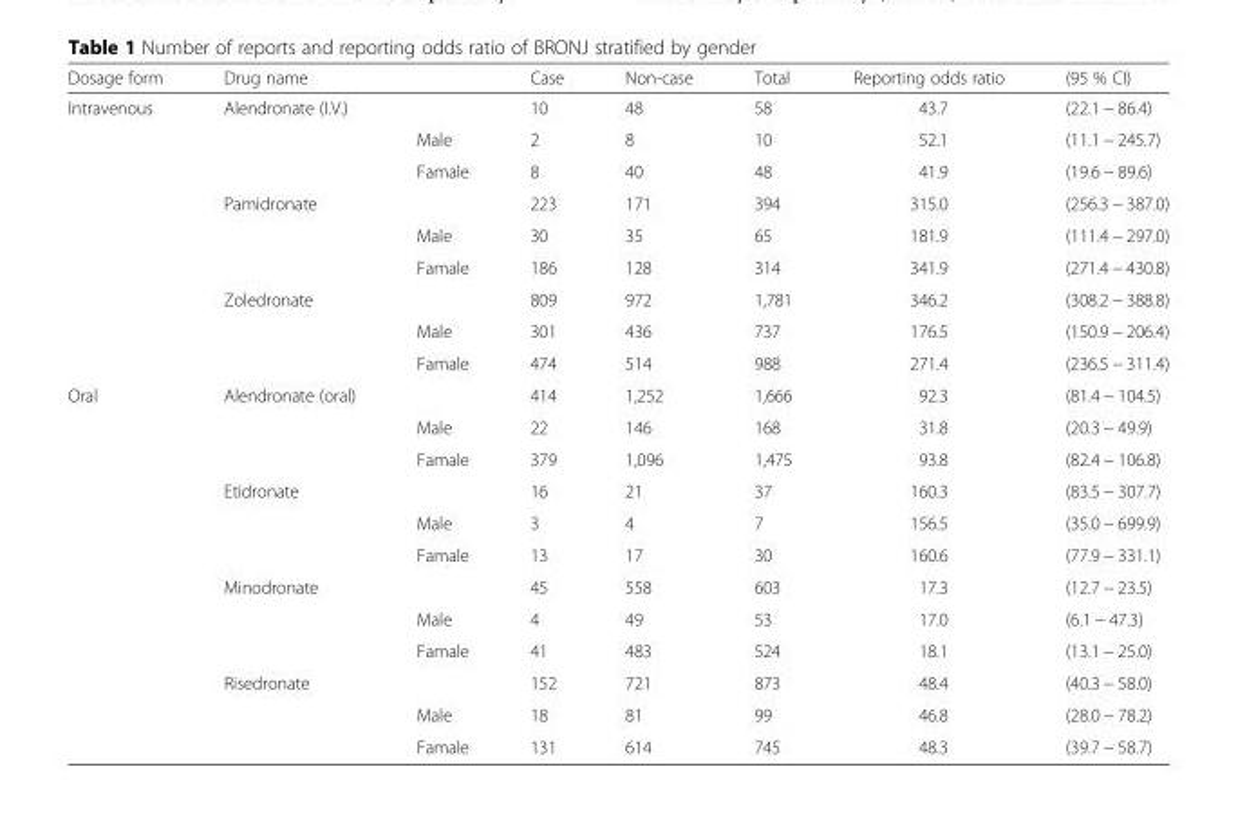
<table><thead><tr><td rowspan="2">Dosage form Intravenous</td><td colspan="2">Drug name</td><td rowspan="2">Case 10</td><td rowspan="2">Non-case 48</td><td rowspan="2">Total 58</td><td rowspan="2">Reporting odds ratio 43.7</td><td rowspan="2">(95 % CI) (22.1 − 86.4)</td></tr><tr><td>Alendronate (I.V.)</td><td></td></tr></thead><tbody><tr><td></td><td></td><td>Male</td><td>2</td><td>8</td><td>10</td><td>52.1</td><td>(11.1 − 245.7)</td></tr><tr><td></td><td></td><td>Famale</td><td>8</td><td>40</td><td>48</td><td>41.9</td><td>(19.6 − 89.6)</td></tr><tr><td></td><td>Pamidronate</td><td></td><td>223</td><td>171</td><td>394</td><td>315.0</td><td>(256.3 − 387.0)</td></tr><tr><td></td><td></td><td>Male</td><td>30</td><td>35</td><td>65</td><td>181.9</td><td>(111.4 − 297.0)</td></tr><tr><td></td><td></td><td>Famale</td><td>186</td><td>128</td><td>314</td><td>341.9</td><td>(271.4 − 430.8)</td></tr><tr><td></td><td>Zoledronate</td><td></td><td>809</td><td>972</td><td>1,781</td><td>346.2</td><td>(308.2 − 388.8)</td></tr><tr><td></td><td></td><td>Male</td><td>301</td><td>436</td><td>737</td><td>176.5</td><td>(150.9 − 206.4)</td></tr><tr><td></td><td></td><td>Famale</td><td>474</td><td>514</td><td>988</td><td>271.4</td><td>(236.5 − 311.4)</td></tr><tr><td rowspan="12">Oral</td><td>Alendronate (oral)</td><td></td><td>414</td><td>1,252</td><td>1,666</td><td>92.3</td><td>(81.4 − 104.5)</td></tr><tr><td></td><td>Male</td><td>22</td><td>146</td><td>168</td><td>31.8</td><td>(20.3 − 49.9)</td></tr><tr><td></td><td>Famale</td><td>379</td><td>1,096</td><td>1,475</td><td>93.8</td><td>(82.4 − 106.8)</td></tr><tr><td>Etidronate</td><td></td><td>16</td><td>21</td><td>37</td><td>160.3</td><td>(83.5 − 307.7)</td></tr><tr><td></td><td>Male</td><td>3</td><td>4</td><td>7</td><td>156.5</td><td>(35.0 − 699.9)</td></tr><tr><td></td><td>Famale</td><td>13</td><td>17</td><td>30</td><td>160.6</td><td>(77.9 − 331.1)</td></tr><tr><td>Minodronate</td><td></td><td>45</td><td>558</td><td>603</td><td>17.3</td><td>(12.7 − 23.5)</td></tr><tr><td></td><td>Male</td><td>4</td><td>49</td><td>53</td><td>17.0</td><td>(6.1 − 47.3)</td></tr><tr><td></td><td>Famale</td><td>41</td><td>483</td><td>524</td><td>18.1</td><td>(13.1 − 25.0)</td></tr><tr><td>Risedronate</td><td></td><td>152</td><td>721</td><td>873</td><td>48.4</td><td>(40.3 − 58.0)</td></tr><tr><td></td><td>Male</td><td>18</td><td>81</td><td>99</td><td>46.8</td><td>(28.0 − 78.2)</td></tr><tr><td></td><td>Famale</td><td>131</td><td>614</td><td>745</td><td>48.3</td><td>(39.7 − 58.7)</td></tr></tbody></table>